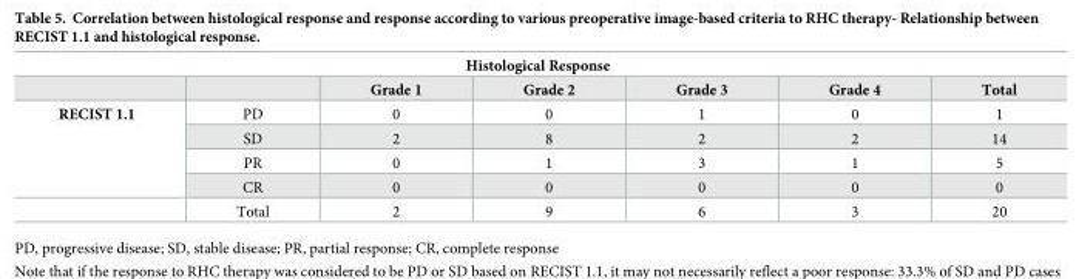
<table><thead><tr><td colspan="7">Histological Response</td></tr><tr><td></td><td></td><td>Grade 1</td><td>Grade 2</td><td>Grade 3</td><td>Grade 4</td><td>Total</td></tr></thead><tbody><tr><td rowspan="5">RECIST 1.1</td><td>PD</td><td>0</td><td>0</td><td>1</td><td>0</td><td>1</td></tr><tr><td>SD</td><td>2</td><td>8</td><td>2</td><td>2</td><td>14</td></tr><tr><td>PR</td><td>0</td><td>1</td><td>3</td><td>1</td><td>5</td></tr><tr><td>CR</td><td>0</td><td>0</td><td>0</td><td>0</td><td>0</td></tr><tr><td>Total</td><td>2</td><td>9</td><td>6</td><td>3</td><td>20</td></tr></tbody></table>